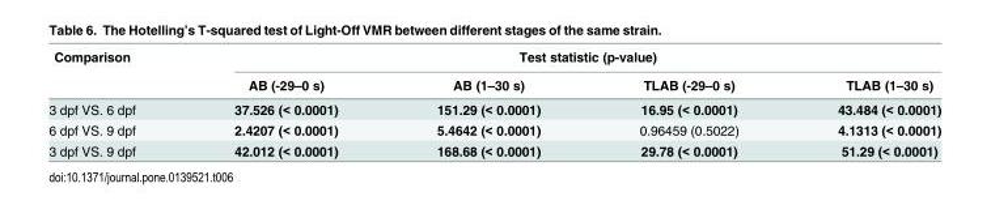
<table><thead><tr><td rowspan="2">Comparison</td><td colspan="4">Test statistic (p-value)</td></tr><tr><td>AB (-29–0 s)</td><td>AB (1–30 s)</td><td>TLAB (-29–0 s)</td><td>TLAB (1–30 s)</td></tr></thead><tbody><tr><td>3 dpf VS. 6 dpf</td><td>37.526 (&lt; 0.0001)</td><td>151.29 (&lt; 0.0001)</td><td>16.95 (&lt; 0.0001)</td><td>43.484 (&lt; 0.0001)</td></tr><tr><td>6 dpf VS. 9 dpf</td><td>2.4207 (&lt; 0.0001)</td><td>5.4642 (&lt; 0.0001)</td><td>0.96459 (0.5022)</td><td>4.1313 (&lt; 0.0001)</td></tr><tr><td>3 dpf VS. 9 dpf</td><td>42.012 (&lt; 0.0001)</td><td>168.68 (&lt; 0.0001)</td><td>29.78 (&lt; 0.0001)</td><td>51.29 (&lt; 0.0001)</td></tr></tbody></table>